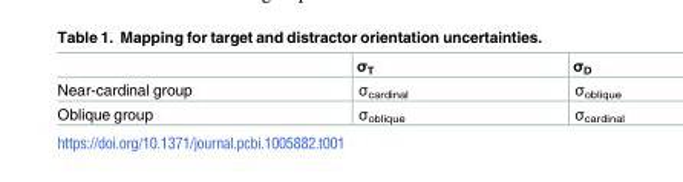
<table><thead><tr><td></td><td>σ<sub>T</sub></td><td>σ<sub>D</sub></td></tr></thead><tbody><tr><td>Near-cardinal group</td><td>σ<sub>cardinal</sub></td><td>σ<sub>oblique</sub></td></tr><tr><td>Oblique group</td><td>σ<sub>oblique</sub></td><td>σ<sub>cardinal</sub></td></tr></tbody></table>